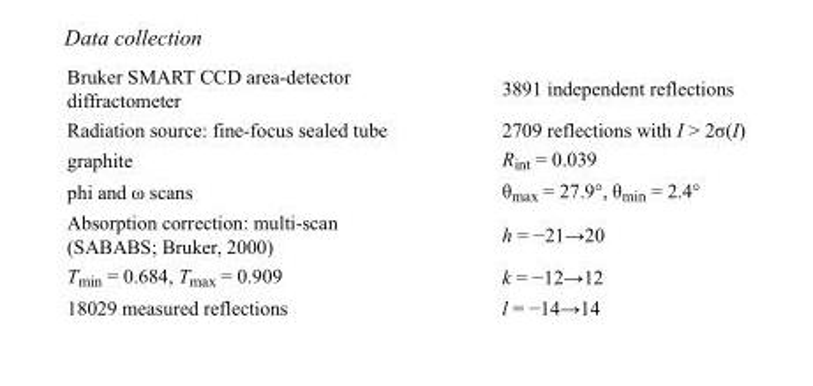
<table><tbody><tr><td>Bruker SMART CCD area-detector diffractometer</td><td>3891 independent reflections</td></tr><tr><td>Radiation source: fine-focus sealed tube</td><td>2709 reflections with I &gt; 2σ(I)</td></tr><tr><td>graphite</td><td>R<sub>int</sub> = 0.039</td></tr><tr><td>phi and ω scans</td><td>θ<sub>max</sub> = 27.9°, θ<sub>min</sub> = 2.4°</td></tr><tr><td>Absorption correction: multi-scan (SABABS; Bruker, 2000)</td><td>h = −21→20</td></tr><tr><td>T<sub>min</sub> = 0.684, T<sub>max</sub> = 0.909</td><td>k = −12→12</td></tr><tr><td>18029 measured reflections</td><td>l = −14→14</td></tr></tbody></table>